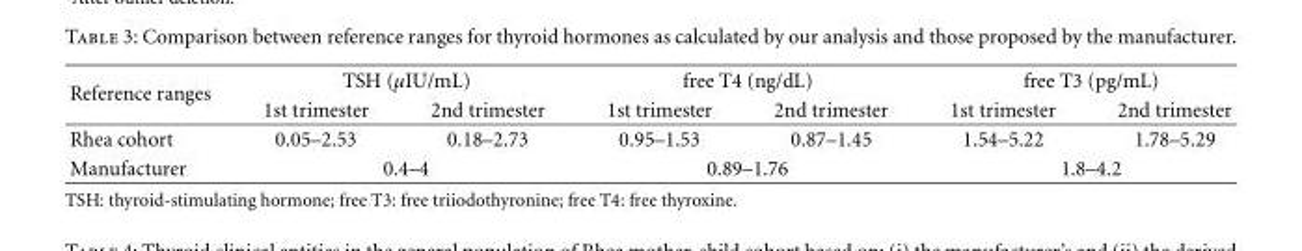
<table><thead><tr><td rowspan="2">Reference ranges</td><td colspan="2">TSH (μIU/mL)</td><td colspan="2">free T4 (ng/dL)</td><td colspan="2">free T3 (pg/mL)</td></tr><tr><td>1st trimester</td><td>2nd trimester</td><td>1st trimester</td><td>2nd trimester</td><td>1st trimester</td><td>2nd trimester</td></tr></thead><tbody><tr><td>Rhea cohort</td><td>0.05–2.53</td><td>0.18–2.73</td><td>0.95–1.53</td><td>0.87–1.45</td><td>1.54–5.22</td><td>1.78–5.29</td></tr><tr><td>Manufacturer</td><td colspan="2">0.4–4</td><td colspan="2">0.89–1.76</td><td colspan="2">1.8–4.2</td></tr></tbody></table>